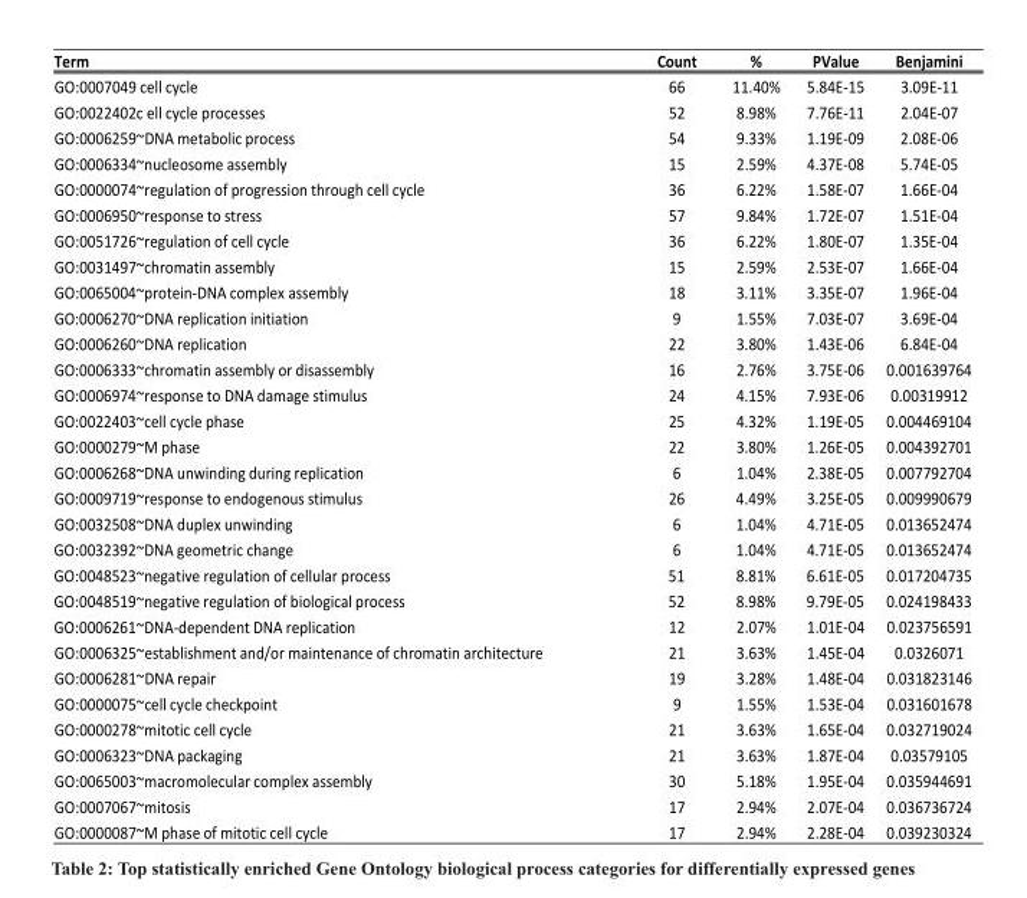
<table><thead><tr><td>Term</td><td>Count</td><td>%</td><td>PValue</td><td>Benjamini</td></tr></thead><tbody><tr><td>GO:0007049 cell cycle</td><td>66</td><td>11.40%</td><td>5.84E-15</td><td>3.09E-11</td></tr><tr><td>GO:0022402c ell cycle processes</td><td>52</td><td>8.98%</td><td>7.76E-11</td><td>2.04E-07</td></tr><tr><td>GO:0006259~DNA metabolic process</td><td>54</td><td>9.33%</td><td>1.19E-09</td><td>2.08E-06</td></tr><tr><td>GO:0006334~nucleosome assembly</td><td>15</td><td>2.59%</td><td>4.37E-08</td><td>5.74E-05</td></tr><tr><td>GO:0000074~regulation of progression through cell cycle</td><td>36</td><td>6.22%</td><td>1.58E-07</td><td>1.66E-04</td></tr><tr><td>GO:0006950~response to stress</td><td>57</td><td>9.84%</td><td>1.72E-07</td><td>1.51E-04</td></tr><tr><td>GO:0051726~regulation of cell cycle</td><td>36</td><td>6.22%</td><td>1.80E-07</td><td>1.35E-04</td></tr><tr><td>GO:0031497~chromatin assembly</td><td>15</td><td>2.59%</td><td>2.53E-07</td><td>1.66E-04</td></tr><tr><td>GO:0065004~protein-DNA complex assembly</td><td>18</td><td>3.11%</td><td>3.35E-07</td><td>1.96E-04</td></tr><tr><td>GO:0006270~DNA replication initiation</td><td>9</td><td>1.55%</td><td>7.03E-07</td><td>3.69E-04</td></tr><tr><td>GO:0006260~DNA replication</td><td>22</td><td>3.80%</td><td>1.43E-06</td><td>6.84E-04</td></tr><tr><td>GO:0006333~chromatin assembly or disassembly</td><td>16</td><td>2.76%</td><td>3.75E-06</td><td>0.001639764</td></tr><tr><td>GO:0006974~response to DNA damage stimulus</td><td>24</td><td>4.15%</td><td>7.93E-06</td><td>0.00319912</td></tr><tr><td>GO:0022403~cell cycle phase</td><td>25</td><td>4.32%</td><td>1.19E-05</td><td>0.004469104</td></tr><tr><td>GO:0000279~M phase</td><td>22</td><td>3.80%</td><td>1.26E-05</td><td>0.004392701</td></tr><tr><td>GO:0006268~DNA unwinding during replication</td><td>6</td><td>1.04%</td><td>2.38E-05</td><td>0.007792704</td></tr><tr><td>GO:0009719~response to endogenous stimulus</td><td>26</td><td>4.49%</td><td>3.25E-05</td><td>0.009990679</td></tr><tr><td>GO:0032508~DNA duplex unwinding</td><td>6</td><td>1.04%</td><td>4.71E-05</td><td>0.013652474</td></tr><tr><td>GO:0032392~DNA geometric change</td><td>6</td><td>1.04%</td><td>4.71E-05</td><td>0.013652474</td></tr><tr><td>GO:0048523~negative regulation of cellular process</td><td>51</td><td>8.81%</td><td>6.61E-05</td><td>0.017204735</td></tr><tr><td>GO:0048519~negative regulation of biological process</td><td>52</td><td>8.98%</td><td>9.79E-05</td><td>0.024198433</td></tr><tr><td>GO:0006261~DNA-dependent DNA replication</td><td>12</td><td>2.07%</td><td>1.01E-04</td><td>0.023756591</td></tr><tr><td>GO:0006325~establishment and/or maintenance of chromatin architecture</td><td>21</td><td>3.63%</td><td>1.45E-04</td><td>0.0326071</td></tr><tr><td>GO:0006281~DNA repair</td><td>19</td><td>3.28%</td><td>1.48E-04</td><td>0.031823146</td></tr><tr><td>GO:0000075~cell cycle checkpoint</td><td>9</td><td>1.55%</td><td>1.53E-04</td><td>0.031601678</td></tr><tr><td>GO:0000278~mitotic cell cycle</td><td>21</td><td>3.63%</td><td>1.65E-04</td><td>0.032719024</td></tr><tr><td>GO:0006323~DNA packaging</td><td>21</td><td>3.63%</td><td>1.87E-04</td><td>0.03579105</td></tr><tr><td>GO:0065003~macromolecular complex assembly</td><td>30</td><td>5.18%</td><td>1.95E-04</td><td>0.035944691</td></tr><tr><td>GO:0007067~mitosis</td><td>17</td><td>2.94%</td><td>2.07E-04</td><td>0.036736724</td></tr><tr><td>GO:0000087~M phase of mitotic cell cycle</td><td>17</td><td>2.94%</td><td>2.28E-04</td><td>0.039230324</td></tr></tbody></table>